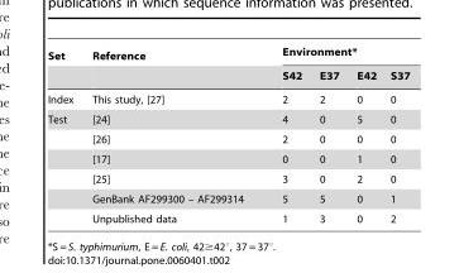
<table><thead><tr><td rowspan="2">Set</td><td rowspan="2">Reference</td><td colspan="4">Environment*</td></tr><tr><td>S42</td><td>E37</td><td>E42</td><td>S37</td></tr></thead><tbody><tr><td>Index</td><td>This study, [27]</td><td>2</td><td>2</td><td>0</td><td>0</td></tr><tr><td rowspan="6">Test</td><td>[24]</td><td>4</td><td>0</td><td>5</td><td>0</td></tr><tr><td>[26]</td><td>2</td><td>0</td><td>0</td><td>0</td></tr><tr><td>[17]</td><td>0</td><td>0</td><td>1</td><td>0</td></tr><tr><td>[25]</td><td>3</td><td>0</td><td>2</td><td>0</td></tr><tr><td>GenBank AF299300 – AF299314</td><td>5</td><td>5</td><td>0</td><td>1</td></tr><tr><td>Unpublished data</td><td>1</td><td>3</td><td>0</td><td>2</td></tr></tbody></table>